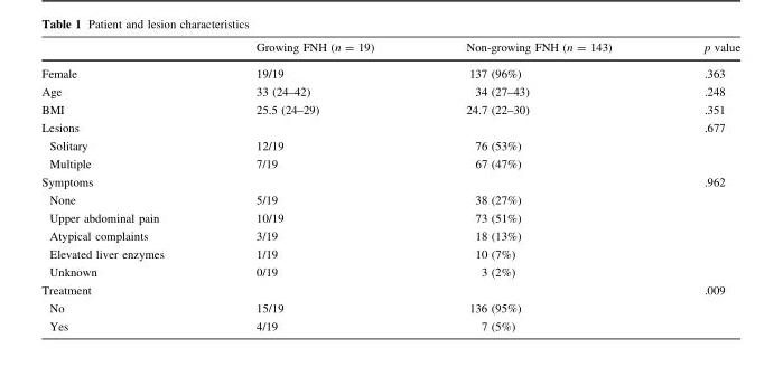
<table><thead><tr><td></td><td>Growing FNH (n = 19)</td><td>Non-growing FNH (n = 143)</td><td>p value</td></tr></thead><tbody><tr><td>Female</td><td>19/19</td><td>137 (96%)</td><td>.363</td></tr><tr><td>Age</td><td>33 (24–42)</td><td>34 (27–43)</td><td>.248</td></tr><tr><td>BMI</td><td>25.5 (24–29)</td><td>24.7 (22–30)</td><td>.351</td></tr><tr><td>Lesions</td><td></td><td></td><td>.677</td></tr><tr><td>Solitary</td><td>12/19</td><td>76 (53%)</td><td></td></tr><tr><td>Multiple</td><td>7/19</td><td>67 (47%)</td><td></td></tr><tr><td>Symptoms</td><td></td><td></td><td>.962</td></tr><tr><td>None</td><td>5/19</td><td>38 (27%)</td><td></td></tr><tr><td>Upper abdominal pain</td><td>10/19</td><td>73 (51%)</td><td></td></tr><tr><td>Atypical complaints</td><td>3/19</td><td>18 (13%)</td><td></td></tr><tr><td>Elevated liver enzymes</td><td>1/19</td><td>10 (7%)</td><td></td></tr><tr><td>Unknown</td><td>0/19</td><td>3 (2%)</td><td></td></tr><tr><td>Treatment</td><td></td><td></td><td>.009</td></tr><tr><td>No</td><td>15/19</td><td>136 (95%)</td><td></td></tr><tr><td>Yes</td><td>4/19</td><td>7 (5%)</td><td></td></tr></tbody></table>